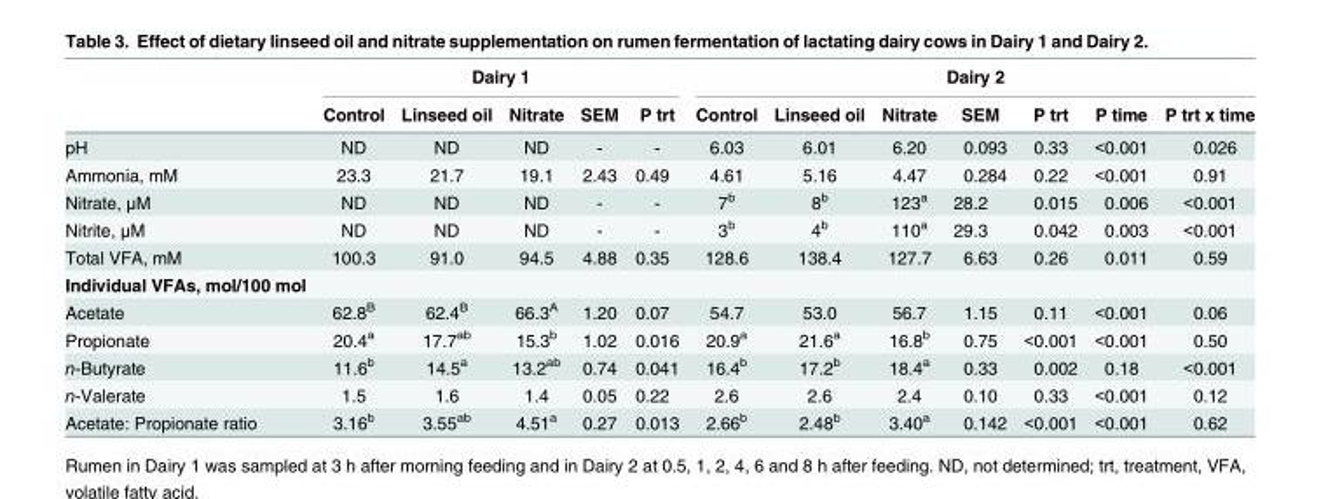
<table><thead><tr><td rowspan="2"></td><td colspan="5">Dairy 1</td><td colspan="7">Dairy 2</td></tr><tr><td>Control</td><td>Linseed oil</td><td>Nitrate</td><td>SEM</td><td>P trt</td><td>Control</td><td>Linseed oil</td><td>Nitrate</td><td>SEM</td><td>P trt</td><td>P time</td><td>P trt x time</td></tr></thead><tbody><tr><td>pH</td><td>ND</td><td>ND</td><td>ND</td><td>-</td><td>-</td><td>6.03</td><td>6.01</td><td>6.20</td><td>0.093</td><td>0.33</td><td>&lt;0.001</td><td>0.026</td></tr><tr><td>Ammonia, mM</td><td>23.3</td><td>21.7</td><td>19.1</td><td>2.43</td><td>0.49</td><td>4.61</td><td>5.16</td><td>4.47</td><td>0.284</td><td>0.22</td><td>&lt;0.001</td><td>0.91</td></tr><tr><td>Nitrate, μM</td><td>ND</td><td>ND</td><td>ND</td><td>-</td><td>-</td><td>7<sup>b</sup></td><td>8<sup>b</sup></td><td>123<sup>a</sup></td><td>28.2</td><td>0.015</td><td>0.006</td><td>&lt;0.001</td></tr><tr><td>Nitrite, μM</td><td>ND</td><td>ND</td><td>ND</td><td>-</td><td>-</td><td>3<sup>b</sup></td><td>4<sup>b</sup></td><td>110<sup>a</sup></td><td>29.3</td><td>0.042</td><td>0.003</td><td>&lt;0.001</td></tr><tr><td>Total VFA, mM</td><td>100.3</td><td>91.0</td><td>94.5</td><td>4.88</td><td>0.35</td><td>128.6</td><td>138.4</td><td>127.7</td><td>6.63</td><td>0.26</td><td>0.011</td><td>0.59</td></tr><tr><td colspan="13">Individual VFAs, mol/100 mol</td></tr><tr><td>Acetate</td><td>62.8<sup>B</sup></td><td>62.4<sup>B</sup></td><td>66.3<sup>A</sup></td><td>1.20</td><td>0.07</td><td>54.7</td><td>53.0</td><td>56.7</td><td>1.15</td><td>0.11</td><td>&lt;0.001</td><td>0.06</td></tr><tr><td>Propionate</td><td>20.4<sup>a</sup></td><td>17.7<sup>ab</sup></td><td>15.3<sup>b</sup></td><td>1.02</td><td>0.016</td><td>20.9<sup>a</sup></td><td>21.6<sup>a</sup></td><td>16.8<sup>b</sup></td><td>0.75</td><td>&lt;0.001</td><td>&lt;0.001</td><td>0.50</td></tr><tr><td>n-Butyrate</td><td>11.6<sup>b</sup></td><td>14.5<sup>a</sup></td><td>13.2<sup>ab</sup></td><td>0.74</td><td>0.041</td><td>16.4<sup>b</sup></td><td>17.2<sup>b</sup></td><td>18.4<sup>a</sup></td><td>0.33</td><td>0.002</td><td>0.18</td><td>&lt;0.001</td></tr><tr><td>n-Valerate</td><td>1.5</td><td>1.6</td><td>1.4</td><td>0.05</td><td>0.22</td><td>2.6</td><td>2.6</td><td>2.4</td><td>0.10</td><td>0.33</td><td>&lt;0.001</td><td>0.12</td></tr><tr><td>Acetate: Propionate ratio</td><td>3.16<sup>b</sup></td><td>3.55<sup>ab</sup></td><td>4.51<sup>a</sup></td><td>0.27</td><td>0.013</td><td>2.66<sup>b</sup></td><td>2.48<sup>b</sup></td><td>3.40<sup>a</sup></td><td>0.142</td><td>&lt;0.001</td><td>&lt;0.001</td><td>0.62</td></tr></tbody></table>